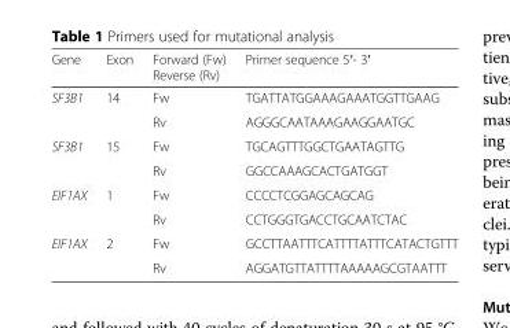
<table><thead><tr><td>Gene</td><td>Exon</td><td>Forward (Fw) Reverse (Rv)</td><td>Primer sequence 5′- 3′</td></tr></thead><tbody><tr><td rowspan="2">SF3B1</td><td>14</td><td>Fw</td><td>TGATTATGGAAAGAAATGGTTGAAG</td></tr><tr><td></td><td>Rv</td><td>AGGGCAATAAAGAAGGAATGC</td></tr><tr><td rowspan="2">SF3B1</td><td>15</td><td>Fw</td><td>TGCAGTTTGGCTGAATAGTTG</td></tr><tr><td></td><td>Rv</td><td>GGCCAAAGCACTGATGGT</td></tr><tr><td rowspan="2">EIF1AX</td><td rowspan="2">1</td><td>Fw</td><td>CCCCTCGGAGCAGCAG</td></tr><tr><td>Rv</td><td>CCTGGGTGACCTGCAATCTAC</td></tr><tr><td rowspan="2">EIF1AX</td><td>2</td><td>Fw</td><td>GCCTTAATTTCATTTTATTTCATACTGTTT</td></tr><tr><td></td><td>Rv</td><td>AGGATGTTATTTTAAAAAGCGTAATTT</td></tr></tbody></table>